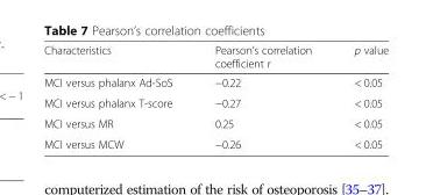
<table><thead><tr><td>Characteristics</td><td>Pearson’s correlation coefficient r</td><td>p value</td></tr></thead><tbody><tr><td>MCI versus phalanx Ad-SoS</td><td>−0.22</td><td>&lt; 0.05</td></tr><tr><td>MCI versus phalanx T-score</td><td>−0.27</td><td>&lt; 0.05</td></tr><tr><td>MCI versus MR</td><td>0.25</td><td>&lt; 0.05</td></tr><tr><td>MCI versus MCW</td><td>−0.26</td><td>&lt; 0.05</td></tr></tbody></table>